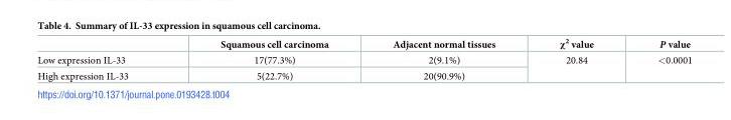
<table><thead><tr><td></td><td>Squamous cell carcinoma</td><td>Adjacent normal tissues</td><td>χ<sup>2</sup> value</td><td>P value</td></tr></thead><tbody><tr><td>Low expression IL-33</td><td>17(77.3%)</td><td>2(9.1%)</td><td rowspan="2">20.84</td><td rowspan="2">&lt;0.0001</td></tr><tr><td>High expression IL-33</td><td>5(22.7%)</td><td>20(90.9%)</td></tr></tbody></table>